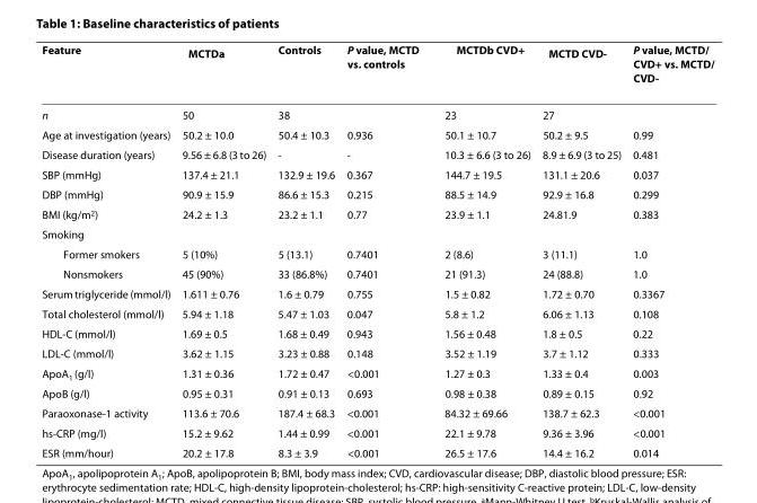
<table><thead><tr><td>Feature</td><td>MCTD<sup>a</sup></td><td>Controls</td><td>P value, MCTD vs. controls</td><td>MCTD<sup>b</sup> CVD<sup>+</sup></td><td>MCTD CVD<sup>-</sup></td><td>P value, MCTD/ CVD<sup>+</sup> vs. MCTD/ CVD<sup>-</sup></td></tr></thead><tbody><tr><td>n</td><td>50</td><td>38</td><td></td><td>23</td><td>27</td><td></td></tr><tr><td>Age at investigation (years)</td><td>50.2 ± 10.0</td><td>50.4 ± 10.3</td><td>0.936</td><td>50.1 ± 10.7</td><td>50.2 ± 9.5</td><td>0.99</td></tr><tr><td>Disease duration (years)</td><td>9.56 ± 6.8 (3 to 26)</td><td>-</td><td>-</td><td>10.3 ± 6.6 (3 to 26)</td><td>8.9 ± 6.9 (3 to 25)</td><td>0.481</td></tr><tr><td>SBP (mmHg)</td><td>137.4 ± 21.1</td><td>132.9 ± 19.6</td><td>0.367</td><td>144.7 ± 19.5</td><td>131.1 ± 20.6</td><td>0.037</td></tr><tr><td>DBP (mmHg)</td><td>90.9 ± 15.9</td><td>86.6 ± 15.3</td><td>0.215</td><td>88.5 ± 14.9</td><td>92.9 ± 16.8</td><td>0.299</td></tr><tr><td>BMI (kg/m<sup>2</sup>)</td><td>24.2 ± 1.3</td><td>23.2 ± 1.1</td><td>0.77</td><td>23.9 ± 1.1</td><td>24.81.9</td><td>0.383</td></tr><tr><td colspan="7">Smoking</td></tr><tr><td>Former smokers</td><td>5 (10%)</td><td>5 (13.1)</td><td>0.7401</td><td>2 (8.6)</td><td>3 (11.1)</td><td>1.0</td></tr><tr><td>Nonsmokers</td><td>45 (90%)</td><td>33 (86.8%)</td><td>0.7401</td><td>21 (91.3)</td><td>24 (88.8)</td><td>1.0</td></tr><tr><td>Serum triglyceride (mmol/l)</td><td>1.611 ± 0.76</td><td>1.6 ± 0.79</td><td>0.755</td><td>1.5 ± 0.82</td><td>1.72 ± 0.70</td><td>0.3367</td></tr><tr><td>Total cholesterol (mmol/l)</td><td>5.94 ± 1.18</td><td>5.47 ± 1.03</td><td>0.047</td><td>5.8 ± 1.2</td><td>6.06 ± 1.13</td><td>0.108</td></tr><tr><td>HDL-C (mmol/l)</td><td>1.69 ± 0.5</td><td>1.68 ± 0.49</td><td>0.943</td><td>1.56 ± 0.48</td><td>1.8 ± 0.5</td><td>0.22</td></tr><tr><td>LDL-C (mmol/l)</td><td>3.62 ± 1.15</td><td>3.23 ± 0.88</td><td>0.148</td><td>3.52 ± 1.19</td><td>3.7 ± 1.12</td><td>0.333</td></tr><tr><td>ApoA<sub>1</sub> (g/l)</td><td>1.31 ± 0.36</td><td>1.72 ± 0.47</td><td>&lt;0.001</td><td>1.27 ± 0.3</td><td>1.33 ± 0.4</td><td>0.003</td></tr><tr><td>ApoB (g/l)</td><td>0.95 ± 0.31</td><td>0.91 ± 0.13</td><td>0.693</td><td>0.98 ± 0.38</td><td>0.89 ± 0.15</td><td>0.92</td></tr><tr><td>Paraoxonase-1 activity</td><td>113.6 ± 70.6</td><td>187.4 ± 68.3</td><td>&lt;0.001</td><td>84.32 ± 69.66</td><td>138.7 ± 62.3</td><td>&lt;0.001</td></tr><tr><td>hs-CRP (mg/l)</td><td>15.2 ± 9.62</td><td>1.44 ± 0.99</td><td>&lt;0.001</td><td>22.1 ± 9.78</td><td>9.36 ± 3.96</td><td>&lt;0.001</td></tr><tr><td>ESR (mm/hour)</td><td>20.2 ± 17.8</td><td>8.3 ± 3.9</td><td>&lt;0.001</td><td>26.5 ± 17.6</td><td>14.4 ± 16.2</td><td>0.014</td></tr></tbody></table>